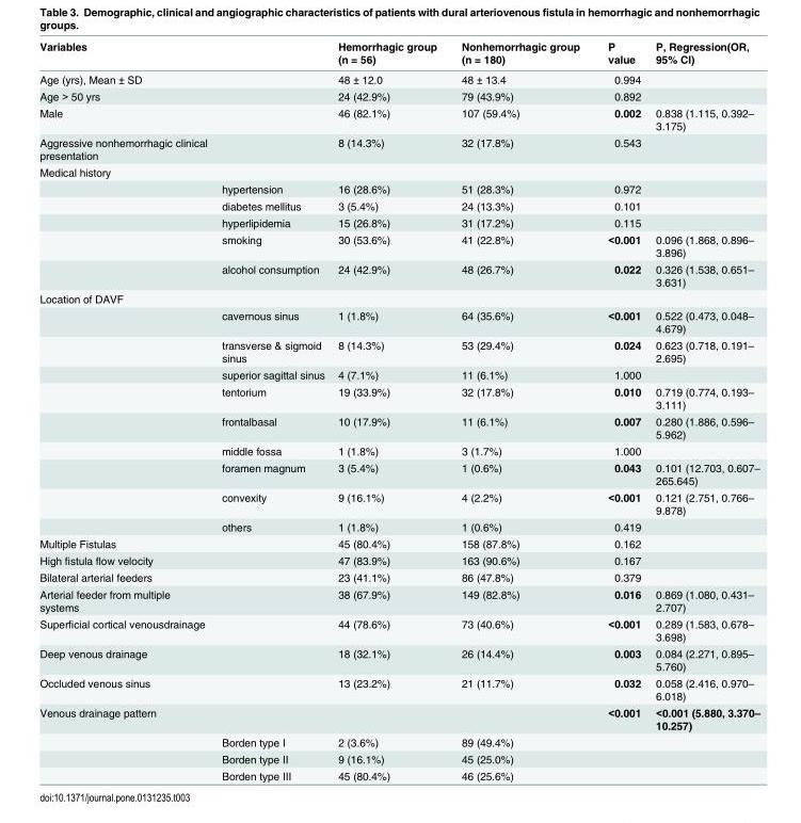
<table><thead><tr><td>Variables</td><td></td><td>Hemorrhagic group (n = 56)</td><td>Nonhemorrhagic group (n = 180)</td><td>P value</td><td>P, Regression(OR, 95% CI)</td></tr></thead><tbody><tr><td>Age (yrs), Mean ± SD</td><td></td><td>48 ± 12.0</td><td>48 ± 13.4</td><td>0.994</td><td></td></tr><tr><td>Age &gt; 50 yrs</td><td></td><td>24 (42.9%)</td><td>79 (43.9%)</td><td>0.892</td><td></td></tr><tr><td>Male</td><td></td><td>46 (82.1%)</td><td>107 (59.4%)</td><td>0.002</td><td>0.838 (1.115, 0.392– 3.175)</td></tr><tr><td>Aggressive nonhemorrhagic clinical presentation</td><td></td><td>8 (14.3%)</td><td>32 (17.8%)</td><td>0.543</td><td></td></tr><tr><td colspan="6">Medical history</td></tr><tr><td></td><td>hypertension</td><td>16 (28.6%)</td><td>51 (28.3%)</td><td>0.972</td><td></td></tr><tr><td></td><td>diabetes mellitus</td><td>3 (5.4%)</td><td>24 (13.3%)</td><td>0.101</td><td></td></tr><tr><td></td><td>hyperlipidemia</td><td>15 (26.8%)</td><td>31 (17.2%)</td><td>0.115</td><td></td></tr><tr><td></td><td>smoking</td><td>30 (53.6%)</td><td>41 (22.8%)</td><td>&lt;0.001</td><td>0.096 (1.868, 0.896– 3.896)</td></tr><tr><td></td><td>alcohol consumption</td><td>24 (42.9%)</td><td>48 (26.7%)</td><td>0.022</td><td>0.326 (1.538, 0.651– 3.631)</td></tr><tr><td colspan="6">Location of DAVF</td></tr><tr><td></td><td>cavernous sinus</td><td>1 (1.8%)</td><td>64 (35.6%)</td><td>&lt;0.001</td><td>0.522 (0.473, 0.048– 4.679)</td></tr><tr><td></td><td>transverse &amp; sigmoid sinus</td><td>8 (14.3%)</td><td>53 (29.4%)</td><td>0.024</td><td>0.623 (0.718, 0.191– 2.695)</td></tr><tr><td></td><td>superior sagittal sinus</td><td>4 (7.1%)</td><td>11 (6.1%)</td><td>1.000</td><td></td></tr><tr><td></td><td>tentorium</td><td>19 (33.9%)</td><td>32 (17.8%)</td><td>0.010</td><td>0.719 (0.774, 0.193– 3.111)</td></tr><tr><td></td><td>frontalbasal</td><td>10 (17.9%)</td><td>11 (6.1%)</td><td>0.007</td><td>0.280 (1.886, 0.596– 5.962)</td></tr><tr><td></td><td>middle fossa</td><td>1 (1.8%)</td><td>3 (1.7%)</td><td>1.000</td><td></td></tr><tr><td></td><td>foramen magnum</td><td>3 (5.4%)</td><td>1 (0.6%)</td><td>0.043</td><td>0.101 (12.703, 0.607– 265.645)</td></tr><tr><td></td><td>convexity</td><td>9 (16.1%)</td><td>4 (2.2%)</td><td>&lt;0.001</td><td>0.121 (2.751, 0.766– 9.878)</td></tr><tr><td></td><td>others</td><td>1 (1.8%)</td><td>1 (0.6%)</td><td>0.419</td><td></td></tr><tr><td>Multiple Fistulas</td><td></td><td>45 (80.4%)</td><td>158 (87.8%)</td><td>0.162</td><td></td></tr><tr><td>High fistula flow velocity</td><td></td><td>47 (83.9%)</td><td>163 (90.6%)</td><td>0.167</td><td></td></tr><tr><td>Bilateral arterial feeders</td><td></td><td>23 (41.1%)</td><td>86 (47.8%)</td><td>0.379</td><td></td></tr><tr><td>Arterial feeder from multiple systems</td><td></td><td>38 (67.9%)</td><td>149 (82.8%)</td><td>0.016</td><td>0.869 (1.080, 0.431– 2.707)</td></tr><tr><td>Superficial cortical venousdrainage</td><td></td><td>44 (78.6%)</td><td>73 (40.6%)</td><td>&lt;0.001</td><td>0.289 (1.583, 0.678– 3.698)</td></tr><tr><td>Deep venous drainage</td><td></td><td>18 (32.1%)</td><td>26 (14.4%)</td><td>0.003</td><td>0.084 (2.271, 0.895– 5.760)</td></tr><tr><td>Occluded venous sinus</td><td></td><td>13 (23.2%)</td><td>21 (11.7%)</td><td>0.032</td><td>0.058 (2.416, 0.970– 6.018)</td></tr><tr><td rowspan="4">Venous drainage pattern</td><td></td><td></td><td></td><td>&lt;0.001</td><td>&lt;0.001 (5.880, 3.370– 10.257)</td></tr><tr><td>Borden type I</td><td>2 (3.6%)</td><td>89 (49.4%)</td><td></td><td></td></tr><tr><td>Borden type II</td><td>9 (16.1%)</td><td>45 (25.0%)</td><td></td><td></td></tr><tr><td>Borden type III</td><td>45 (80.4%)</td><td>46 (25.6%)</td><td></td><td></td></tr></tbody></table>